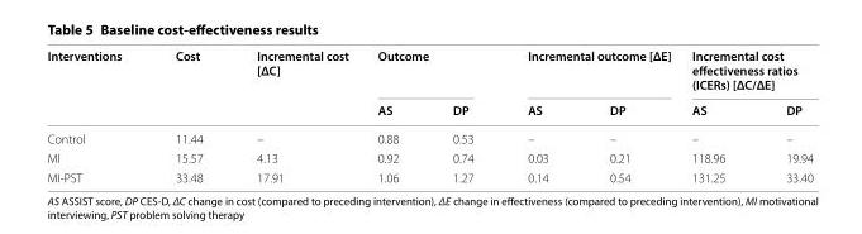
<table><thead><tr><td rowspan="2">Interventions</td><td rowspan="2">Cost</td><td rowspan="2">Incremental cost [ΔC]</td><td colspan="2">Outcome</td><td colspan="2">Incremental outcome [ΔE]</td><td colspan="2">Incremental cost effectiveness ratios (ICERs) [ΔC/ΔE]</td></tr><tr><td>AS</td><td>DP</td><td>AS</td><td>DP</td><td>AS</td><td>DP</td></tr></thead><tbody><tr><td>Control</td><td>11.44</td><td>–</td><td>0.88</td><td>0.53</td><td>–</td><td>–</td><td>–</td><td>–</td></tr><tr><td>MI</td><td>15.57</td><td>4.13</td><td>0.92</td><td>0.74</td><td>0.03</td><td>0.21</td><td>118.96</td><td>19.94</td></tr><tr><td>MI-PST</td><td>33.48</td><td>17.91</td><td>1.06</td><td>1.27</td><td>0.14</td><td>0.54</td><td>131.25</td><td>33.40</td></tr></tbody></table>